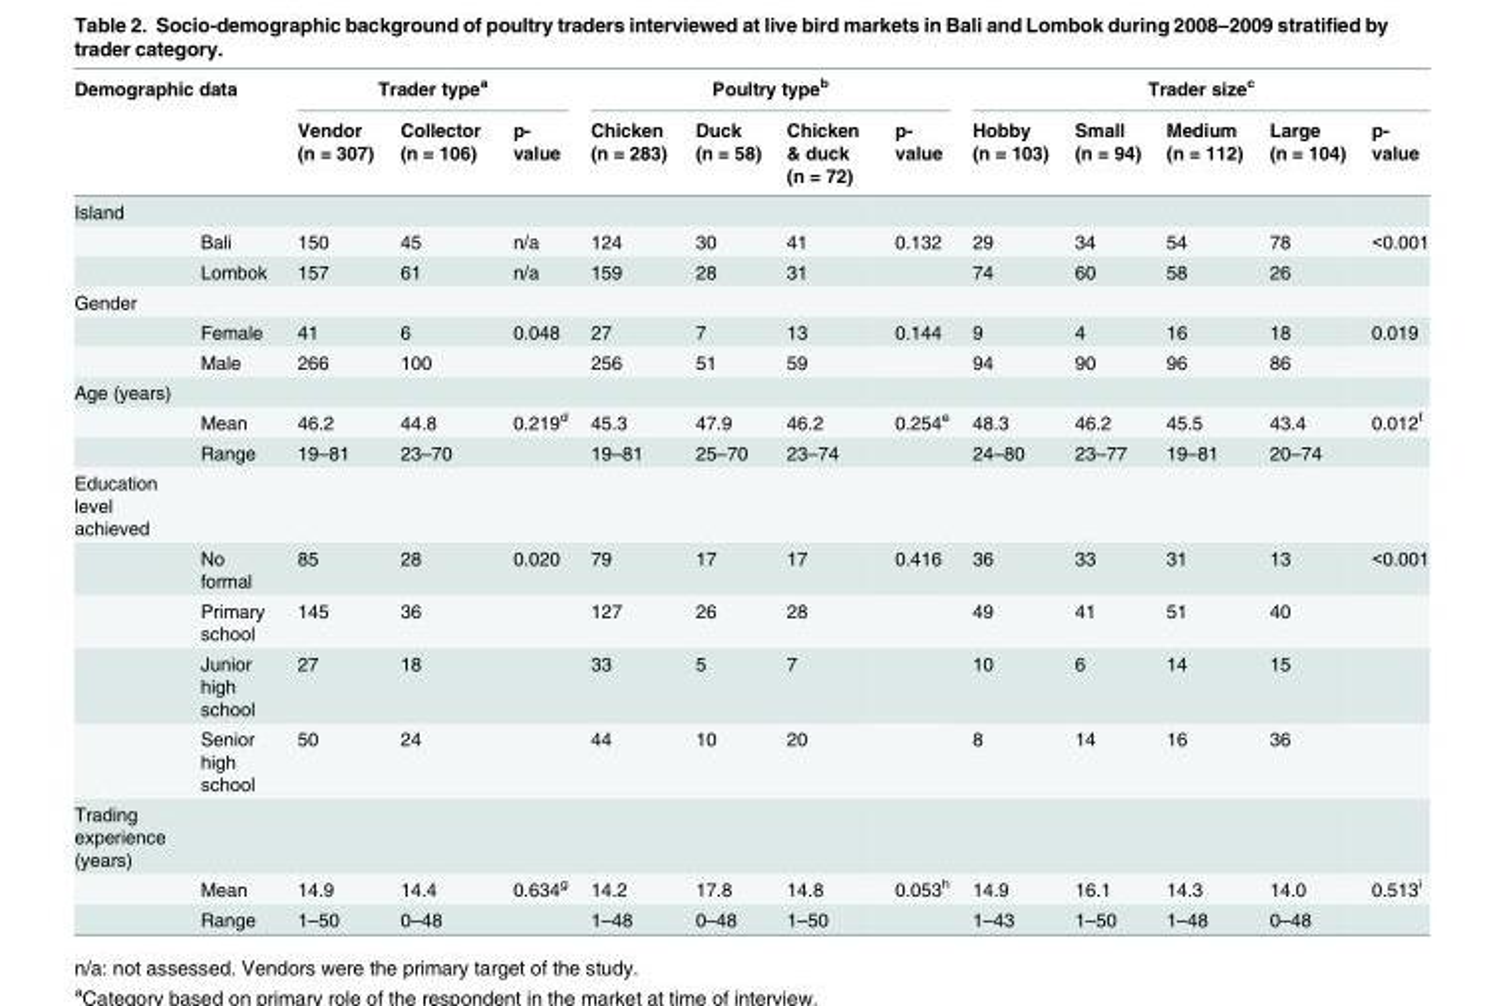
<table><thead><tr><td colspan="2">Demographic data</td><td colspan="3">Trader type<sup>a</sup></td><td colspan="4">Poultry type<sup>b</sup></td><td colspan="5">Trader size<sup>c</sup></td></tr><tr><td></td><td></td><td>Vendor (n = 307)</td><td>Collector (n = 106)</td><td>p- value</td><td>Chicken (n = 283)</td><td>Duck (n = 58)</td><td>Chicken &amp; duck (n = 72)</td><td>p- value</td><td>Hobby (n = 103)</td><td>Small (n = 94)</td><td>Medium (n = 112)</td><td>Large (n = 104)</td><td>p- value</td></tr></thead><tbody><tr><td colspan="14">Island</td></tr><tr><td></td><td>Bali</td><td>150</td><td>45</td><td>n/a</td><td>124</td><td>30</td><td>41</td><td>0.132</td><td>29</td><td>34</td><td>54</td><td>78</td><td>&lt;0.001</td></tr><tr><td></td><td>Lombok</td><td>157</td><td>61</td><td>n/a</td><td>159</td><td>28</td><td>31</td><td></td><td>74</td><td>60</td><td>58</td><td>26</td><td></td></tr><tr><td colspan="14">Gender</td></tr><tr><td></td><td>Female</td><td>41</td><td>6</td><td>0.048</td><td>27</td><td>7</td><td>13</td><td>0.144</td><td>9</td><td>4</td><td>16</td><td>18</td><td>0.019</td></tr><tr><td></td><td>Male</td><td>266</td><td>100</td><td></td><td>256</td><td>51</td><td>59</td><td></td><td>94</td><td>90</td><td>96</td><td>86</td><td></td></tr><tr><td colspan="14">Age (years)</td></tr><tr><td></td><td>Mean</td><td>46.2</td><td>44.8</td><td>0.219<sup>d</sup></td><td>45.3</td><td>47.9</td><td>46.2</td><td>0.254<sup>e</sup></td><td>48.3</td><td>46.2</td><td>45.5</td><td>43.4</td><td>0.012<sup>f</sup></td></tr><tr><td></td><td>Range</td><td>19–81</td><td>23–70</td><td></td><td>19–81</td><td>25–70</td><td>23–74</td><td></td><td>24–80</td><td>23–77</td><td>19–81</td><td>20–74</td><td></td></tr><tr><td colspan="14">Education level achieved</td></tr><tr><td></td><td>No formal</td><td>85</td><td>28</td><td>0.020</td><td>79</td><td>17</td><td>17</td><td>0.416</td><td>36</td><td>33</td><td>31</td><td>13</td><td>&lt;0.001</td></tr><tr><td></td><td>Primary school</td><td>145</td><td>36</td><td></td><td>127</td><td>26</td><td>28</td><td></td><td>49</td><td>41</td><td>51</td><td>40</td><td></td></tr><tr><td></td><td>Junior high school</td><td>27</td><td>18</td><td></td><td>33</td><td>5</td><td>7</td><td></td><td>10</td><td>6</td><td>14</td><td>15</td><td></td></tr><tr><td></td><td>Senior high school</td><td>50</td><td>24</td><td></td><td>44</td><td>10</td><td>20</td><td></td><td>8</td><td>14</td><td>16</td><td>36</td><td></td></tr><tr><td colspan="14">Trading experience (years)</td></tr><tr><td></td><td>Mean</td><td>14.9</td><td>14.4</td><td>0.634<sup>g</sup></td><td>14.2</td><td>17.8</td><td>14.8</td><td>0.053<sup>h</sup></td><td>14.9</td><td>16.1</td><td>14.3</td><td>14.0</td><td>0.513<sup>i</sup></td></tr><tr><td></td><td>Range</td><td>1–50</td><td>0–48</td><td></td><td>1–48</td><td>0–48</td><td>1–50</td><td></td><td>1–43</td><td>1–50</td><td>1–48</td><td>0–48</td><td></td></tr></tbody></table>